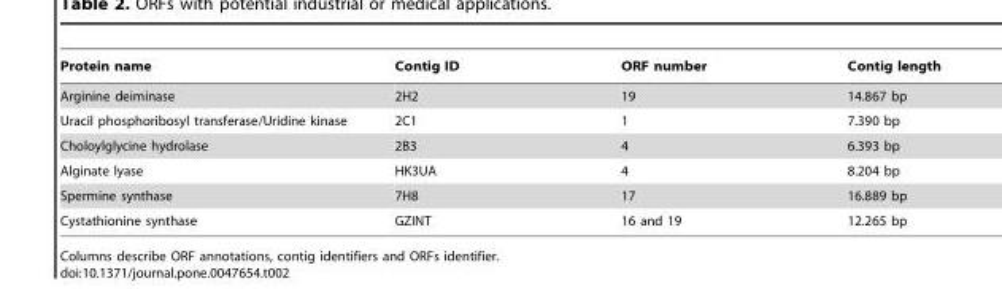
<table><thead><tr><td>Protein name</td><td>Contig ID</td><td>ORF number</td><td>Contig length</td></tr></thead><tbody><tr><td>Arginine deiminase</td><td>2H2</td><td>19</td><td>14.867 bp</td></tr><tr><td>Uracil phosphoribosyl transferase/Uridine kinase</td><td>2C1</td><td>1</td><td>7.390 bp</td></tr><tr><td>Choloylglycine hydrolase</td><td>2B3</td><td>4</td><td>6.393 bp</td></tr><tr><td>Alginate lyase</td><td>HK3UA</td><td>4</td><td>8.204 bp</td></tr><tr><td>Spermine synthase</td><td>7H8</td><td>17</td><td>16.889 bp</td></tr><tr><td>Cystathionine synthase</td><td>GZINT</td><td>16 and 19</td><td>12.265 bp</td></tr></tbody></table>